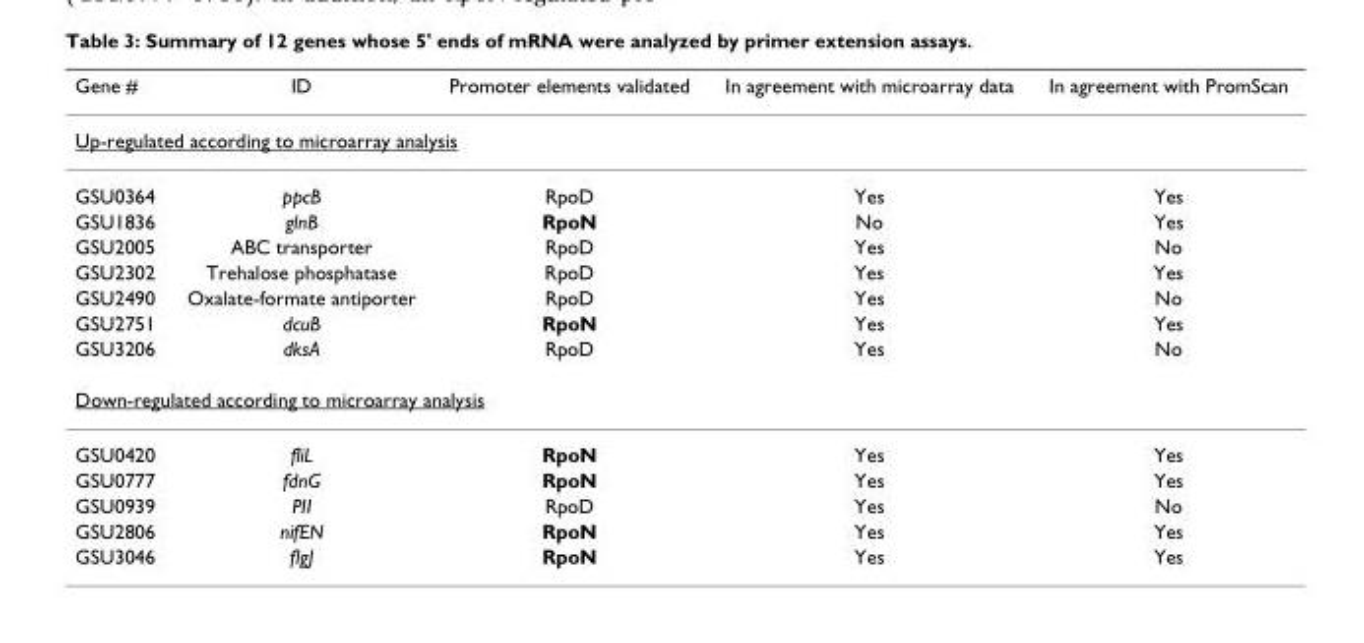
<table><thead><tr><td>Gene #</td><td>ID</td><td>Promoter elements validated</td><td>In agreement with microarray data</td><td>In agreement with PromScan</td></tr></thead><tbody><tr><td colspan="5">Up-regulated according to microarray analysis</td></tr><tr><td>GSU0364</td><td>ppcB</td><td>RpoD</td><td>Yes</td><td>Yes</td></tr><tr><td>GSU1836</td><td>glnB</td><td>RpoN</td><td>No</td><td>Yes</td></tr><tr><td>GSU2005</td><td>ABC transporter</td><td>RpoD</td><td>Yes</td><td>No</td></tr><tr><td>GSU2302</td><td>Trehalose phosphatase</td><td>RpoD</td><td>Yes</td><td>Yes</td></tr><tr><td>GSU2490</td><td>Oxalate-formate antiporter</td><td>RpoD</td><td>Yes</td><td>No</td></tr><tr><td>GSU2751</td><td>dcuB</td><td>RpoN</td><td>Yes</td><td>Yes</td></tr><tr><td>GSU3206</td><td>dksA</td><td>RpoD</td><td>Yes</td><td>No</td></tr><tr><td colspan="5">Down-regulated according to microarray analysis</td></tr><tr><td>GSU0420</td><td>fliL</td><td>RpoN</td><td>Yes</td><td>Yes</td></tr><tr><td>GSU0777</td><td>fdnG</td><td>RpoN</td><td>Yes</td><td>Yes</td></tr><tr><td>GSU0939</td><td>PII</td><td>RpoD</td><td>Yes</td><td>No</td></tr><tr><td>GSU2806</td><td>nifEN</td><td>RpoN</td><td>Yes</td><td>Yes</td></tr><tr><td>GSU3046</td><td>flgJ</td><td>RpoN</td><td>Yes</td><td>Yes</td></tr></tbody></table>